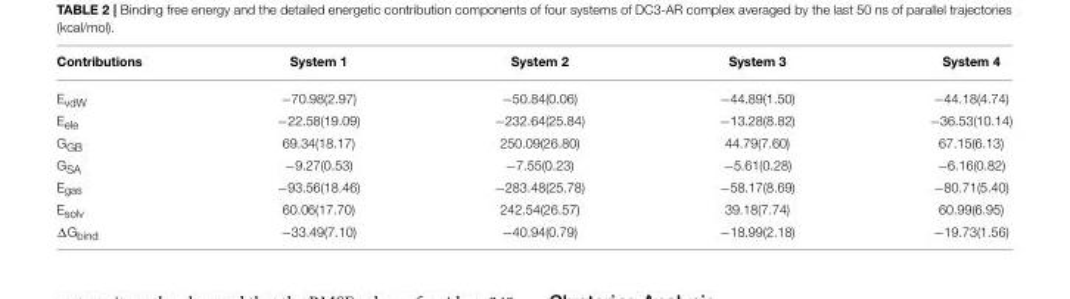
<table><thead><tr><td>Contributions</td><td>System 1</td><td>System 2</td><td>System 3</td><td>System 4</td></tr></thead><tbody><tr><td>E<sub>vdW</sub></td><td>−70.98(2.97)</td><td>−50.84(0.06)</td><td>−44.89(1.50)</td><td>−44.18(4.74)</td></tr><tr><td>E<sub>ele</sub></td><td>−22.58(19.09)</td><td>−232.64(25.84)</td><td>−13.28(8.82)</td><td>−36.53(10.14)</td></tr><tr><td>G<sub>GB</sub></td><td>69.34(18.17)</td><td>250.09(26.80)</td><td>44.79(7.60)</td><td>67.15(6.13)</td></tr><tr><td>G<sub>SA</sub></td><td>−9.27(0.53)</td><td>−7.55(0.23)</td><td>−5.61(0.28)</td><td>−6.16(0.82)</td></tr><tr><td>E<sub>gas</sub></td><td>−93.56(18.46)</td><td>−283.48(25.78)</td><td>−58.17(8.69)</td><td>−80.71(5.40)</td></tr><tr><td>E<sub>solv</sub></td><td>60.06(17.70)</td><td>242.54(26.57)</td><td>39.18(7.74)</td><td>60.99(6.95)</td></tr><tr><td>ΔG<sub>bind</sub></td><td>−33.49(7.10)</td><td>−40.94(0.79)</td><td>−18.99(2.18)</td><td>−19.73(1.56)</td></tr></tbody></table>